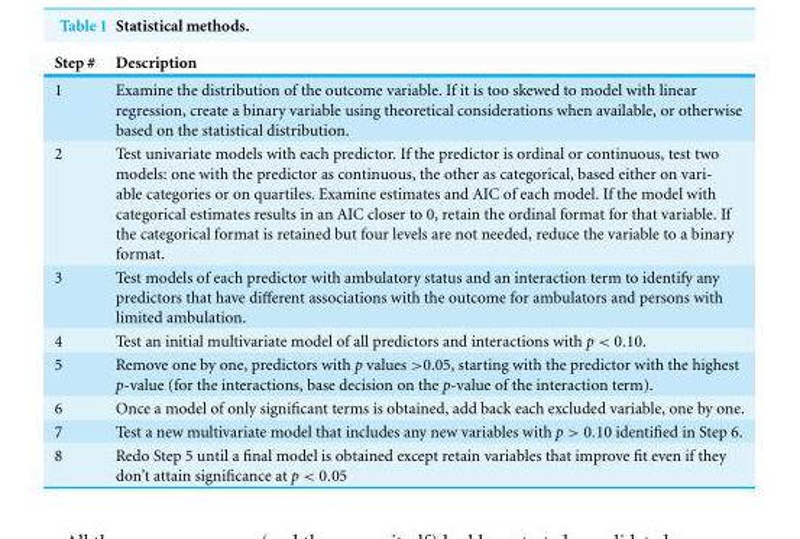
<table><thead><tr><td>Step #</td><td>Description</td></tr></thead><tbody><tr><td>1</td><td>Examine the distribution of the outcome variable. If it is too skewed to model with linear regression, create a binary variable using theoretical considerations when available, or otherwise based on the statistical distribution.</td></tr><tr><td>2</td><td>Test univariate models with each predictor. If the predictor is ordinal or continuous, test two models: one with the predictor as continuous, the other as categorical, based either on vari- able categories or on quartiles. Examine estimates and AIC of each model. If the model with categorical estimates results in an AIC closer to 0, retain the ordinal format for that variable. If the categorical format is retained but four levels are not needed, reduce the variable to a binary format.</td></tr><tr><td>3</td><td>Test models of each predictor with ambulatory status and an interaction term to identify any predictors that have different associations with the outcome for ambulators and persons with limited ambulation.</td></tr><tr><td>4</td><td>Test an initial multivariate model of all predictors and interactions with p &lt; 0.10.</td></tr><tr><td>5</td><td>Remove one by one, predictors with p values &gt;0.05, starting with the predictor with the highest p-value (for the interactions, base decision on the p-value of the interaction term).</td></tr><tr><td>6</td><td>Once a model of only significant terms is obtained, add back each excluded variable, one by one.</td></tr><tr><td>7</td><td>Test a new multivariate model that includes any new variables with p &gt; 0.10 identified in Step 6.</td></tr><tr><td>8</td><td>Redo Step 5 until a final model is obtained except retain variables that improve fit even if they don’t attain significance at p &lt; 0.05</td></tr></tbody></table>